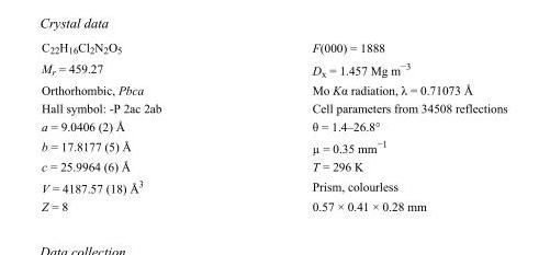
<table><tbody><tr><td>C<sub>22</sub>H<sub>16</sub>Cl<sub>2</sub>N<sub>2</sub>O<sub>5</sub></td><td>F(000) = 1888</td></tr><tr><td>M<sub>r</sub> = 459.27</td><td>D<sub>x</sub> = 1.457 Mg m<sup>−3</sup></td></tr><tr><td>Orthorhombic, Pbca</td><td>Mo Kα radiation, λ = 0.71073 Å</td></tr><tr><td>Hall symbol: -P 2ac 2ab</td><td>Cell parameters from 34508 reflections</td></tr><tr><td>a = 9.0406 (2) Å</td><td>θ = 1.4–26.8°</td></tr><tr><td>b = 17.8177 (5) Å</td><td>µ = 0.35 mm<sup>−1</sup></td></tr><tr><td>c = 25.9964 (6) Å</td><td>T = 296 K</td></tr><tr><td>V = 4187.57 (18) Å<sup>3</sup></td><td>Prism, colourless</td></tr><tr><td>Z = 8</td><td>0.57 × 0.41 × 0.28 mm</td></tr></tbody></table>